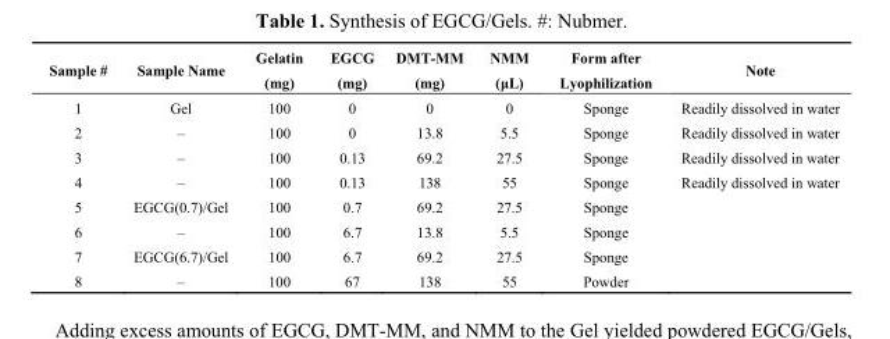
<table><thead><tr><td>Sample #</td><td>Sample Name</td><td>Gelatin (mg)</td><td>EGCG (mg)</td><td>DMT-MM (mg)</td><td>NMM (μL)</td><td>Form after Lyophilization</td><td>Note</td></tr></thead><tbody><tr><td>1</td><td>Gel</td><td>100</td><td>0</td><td>0</td><td>0</td><td>Sponge</td><td>Readily dissolved in water</td></tr><tr><td>2</td><td>–</td><td>100</td><td>0</td><td>13.8</td><td>5.5</td><td>Sponge</td><td>Readily dissolved in water</td></tr><tr><td>3</td><td>–</td><td>100</td><td>0.13</td><td>69.2</td><td>27.5</td><td>Sponge</td><td>Readily dissolved in water</td></tr><tr><td>4</td><td>–</td><td>100</td><td>0.13</td><td>138</td><td>55</td><td>Sponge</td><td>Readily dissolved in water</td></tr><tr><td>5</td><td>EGCG(0.7)/Gel</td><td>100</td><td>0.7</td><td>69.2</td><td>27.5</td><td>Sponge</td><td></td></tr><tr><td>6</td><td>–</td><td>100</td><td>6.7</td><td>13.8</td><td>5.5</td><td>Sponge</td><td></td></tr><tr><td>7</td><td>EGCG(6.7)/Gel</td><td>100</td><td>6.7</td><td>69.2</td><td>27.5</td><td>Sponge</td><td></td></tr><tr><td>8</td><td>–</td><td>100</td><td>67</td><td>138</td><td>55</td><td>Powder</td><td></td></tr></tbody></table>